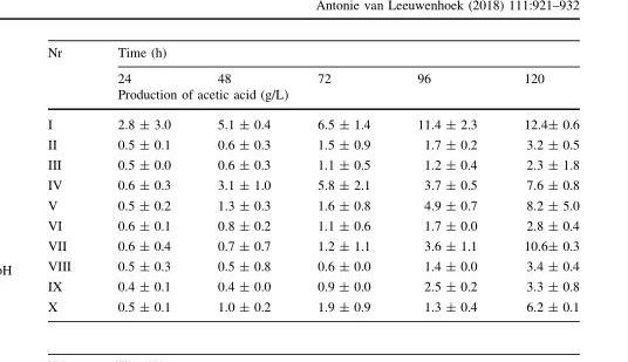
<table><thead><tr><td rowspan="3">Nr</td><td colspan="5">Time (h)</td></tr><tr><td>24</td><td>48</td><td>72</td><td>96</td><td>120</td></tr><tr><td colspan="5">Production of acetic acid (g/L)</td></tr></thead><tbody><tr><td>I</td><td>2.8 ± 3.0</td><td>5.1 ± 0.4</td><td>6.5 ± 1.4</td><td>11.4 ± 2.3</td><td>12.4± 0.6</td></tr><tr><td>II</td><td>0.5 ± 0.1</td><td>0.6 ± 0.3</td><td>1.5 ± 0.9</td><td>1.7 ± 0.2</td><td>3.2 ± 0.5</td></tr><tr><td>III</td><td>0.5 ± 0.0</td><td>0.6 ± 0.3</td><td>1.1 ± 0.5</td><td>1.2 ± 0.4</td><td>2.3 ± 1.8</td></tr><tr><td>IV</td><td>0.6 ± 0.3</td><td>3.1 ± 1.0</td><td>5.8 ± 2.1</td><td>3.7 ± 0.5</td><td>7.6 ± 0.8</td></tr><tr><td>V</td><td>0.5 ± 0.2</td><td>1.3 ± 0.3</td><td>1.6 ± 0.8</td><td>4.9 ± 0.7</td><td>8.2 ± 5.0</td></tr><tr><td>VI</td><td>0.6 ± 0.1</td><td>0.8 ± 0.2</td><td>1.1 ± 0.6</td><td>1.7 ± 0.0</td><td>2.8 ± 0.4</td></tr><tr><td>VII</td><td>0.6 ± 0.4</td><td>0.7 ± 0.7</td><td>1.2 ± 1.1</td><td>3.6 ± 1.1</td><td>10.6± 0.3</td></tr><tr><td>VIII</td><td>0.5 ± 0.3</td><td>0.5 ± 0.8</td><td>0.6 ± 0.0</td><td>1.4 ± 0.0</td><td>3.4 ± 0.4</td></tr><tr><td>IX</td><td>0.4 ± 0.1</td><td>0.4 ± 0.0</td><td>0.9 ± 0.0</td><td>2.5 ± 0.2</td><td>3.3 ± 0.8</td></tr><tr><td>X</td><td>0.5 ± 0.1</td><td>1.0 ± 0.2</td><td>1.9 ± 0.9</td><td>1.3 ± 0.4</td><td>6.2 ± 0.1</td></tr></tbody></table>